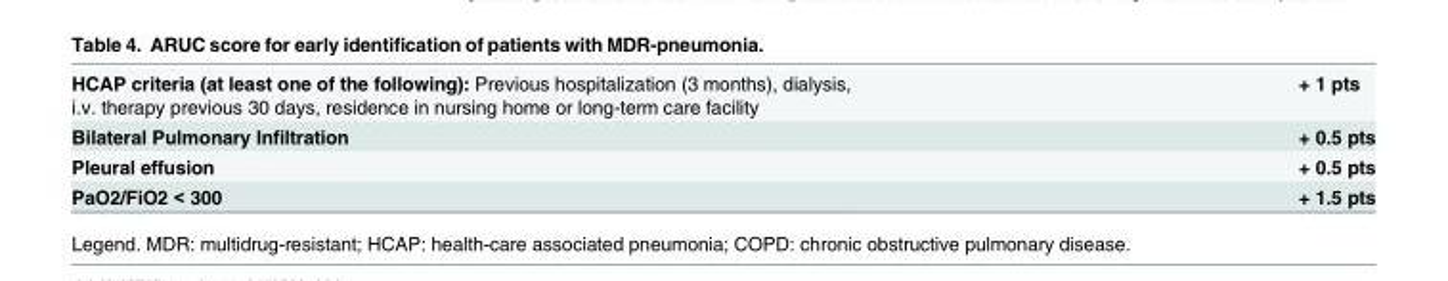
<table><tbody><tr><td>HCAP criteria (at least one of the following): Previous hospitalization (3 months), dialysis, i.v. therapy previous 30 days, residence in nursing home or long-term care facility</td><td>+ 1 pts</td></tr><tr><td>Bilateral Pulmonary Infiltration</td><td>+ 0.5 pts</td></tr><tr><td>Pleural effusion</td><td>+ 0.5 pts</td></tr><tr><td>PaO2/FiO2 &lt; 300</td><td>+ 1.5 pts</td></tr></tbody></table>